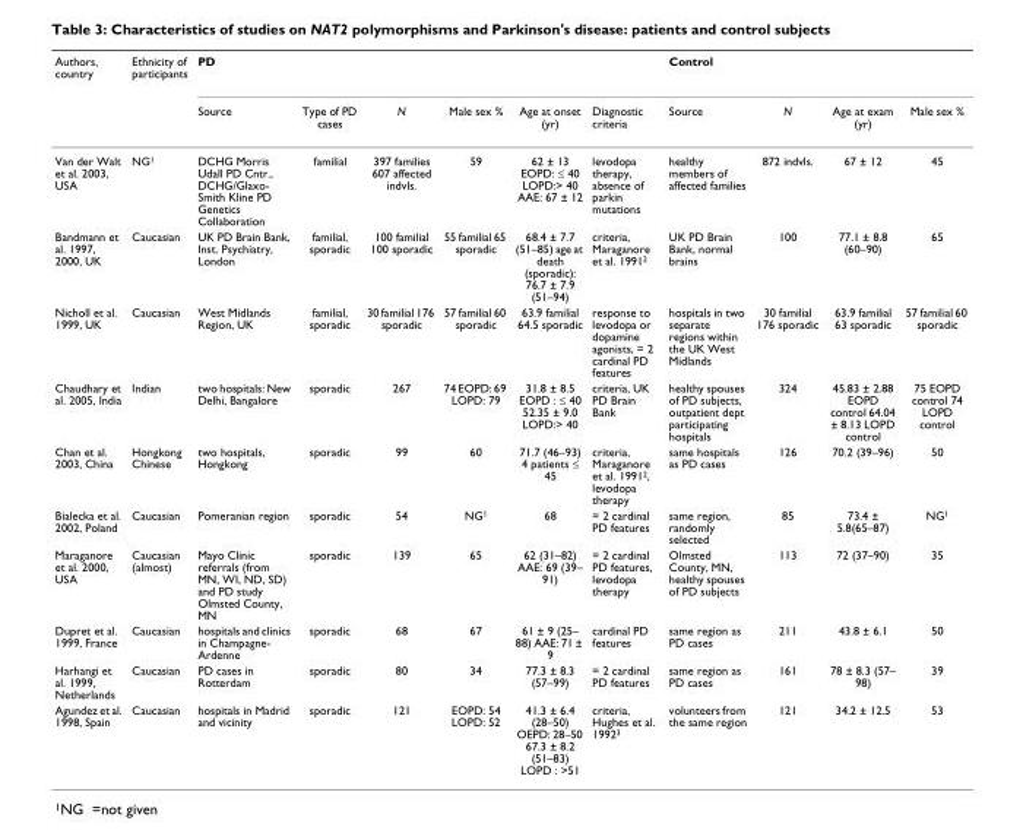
<table><thead><tr><td rowspan="2">Authors, country</td><td rowspan="2">Ethnicity of participants</td><td colspan="6">PD</td><td colspan="4">Control</td></tr><tr><td>Source</td><td>Type of PD cases</td><td>N</td><td>Male sex %</td><td>Age at onset (yr)</td><td>Diagnostic criteria</td><td>Source</td><td>N</td><td>Age at exam (yr)</td><td>Male sex %</td></tr></thead><tbody><tr><td>Van der Walt et al. 2003, USA</td><td>NG<sup>1</sup></td><td>DCHG Morris Udall PD Cntr., DCHG/Glaxo- Smith Kline PD Genetics Collaboration</td><td>familial</td><td>397 families 607 affected indvls.</td><td>59</td><td>62 ± 13 EOPD: ≤ 40 LOPD:&gt; 40 AAE: 67 ± 12</td><td>levodopa therapy, absence of parkin mutations</td><td>healthy members of affected families</td><td>872 indvls.</td><td>67 ± 12</td><td>45</td></tr><tr><td>Bandmann et al. 1997, 2000, UK</td><td>Caucasian</td><td>UK PD Brain Bank, Inst. Psychiatry, London</td><td>familial, sporadic</td><td>100 familial 100 sporadic</td><td>55 familial 65 sporadic</td><td>68.4 ± 7.7 (51–85) age at death (sporadic): 76.7 ± 7.9 (51–94)</td><td>criteria, Maraganore et al. 1991<sup>2</sup></td><td>UK PD Brain Bank, normal brains</td><td>100</td><td>77.1 ± 8.8 (60–90)</td><td>65</td></tr><tr><td>Nicholl et al. 1999, UK</td><td>Caucasian</td><td>West Midlands Region, UK</td><td>familial, sporadic</td><td>30 familial 176 sporadic</td><td>57 familial 60 sporadic</td><td>63.9 familial 64.5 sporadic</td><td>response to levodopa or dopamine agonists, = 2 cardinal PD features</td><td>hospitals in two separate regions within the UK West Midlands</td><td>30 familial 176 sporadic</td><td>63.9 familial 63 sporadic</td><td>57 familial 60 sporadic</td></tr><tr><td>Chaudhary et al. 2005, India</td><td>Indian</td><td>two hospitals: New Delhi, Bangalore</td><td>sporadic</td><td>267</td><td>74 EOPD: 69 LOPD: 79</td><td>31.8 ± 8.5 EOPD : ≤ 40 52.35 ± 9.0 LOPD:&gt; 40</td><td>criteria, UK PD Brain Bank</td><td>healthy spouses of PD subjects, outpatient dept participating hospitals</td><td>324</td><td>45.83 ± 2.88 EOPD control 64.04 ± 8.13 LOPD control</td><td>75 EOPD control 74 LOPD control</td></tr><tr><td>Chan et al. 2003, China</td><td>Hongkong Chinese</td><td>two hospitals, Hongkong</td><td>sporadic</td><td>99</td><td>60</td><td>71.7 (46–93) 4 patients ≤ 45</td><td>criteria, Maraganore et al. 1991<sup>2</sup>, levodopa therapy</td><td>same hospitals as PD cases</td><td>126</td><td>70.2 (39–96)</td><td>50</td></tr><tr><td>Bialecka et al. 2002, Poland</td><td>Caucasian</td><td>Pomeranian region</td><td>sporadic</td><td>54</td><td>NG<sup>1</sup></td><td>68</td><td>= 2 cardinal PD features</td><td>same region, randomly selected</td><td>85</td><td>73.4 ± 5.8(65–87)</td><td>NG<sup>1</sup></td></tr><tr><td>Maraganore et al. 2000, USA</td><td>Caucasian (almost)</td><td>Mayo Clinic referrals (from MN, WI, ND, SD) and PD study Olmsted County, MN</td><td>sporadic</td><td>139</td><td>65</td><td>62 (31–82) AAE: 69 (39– 91)</td><td>= 2 cardinal PD features, levodopa therapy</td><td>Olmsted County, MN, healthy spouses of PD subjects</td><td>113</td><td>72 (37–90)</td><td>35</td></tr><tr><td>Dupret et al. 1999, France</td><td>Caucasian</td><td>hospitals and clinics in Champagne- Ardenne</td><td>sporadic</td><td>68</td><td>67</td><td>61 ± 9 (25– 88) AAE: 71 ± 9</td><td>cardinal PD features</td><td>same region as PD cases</td><td>211</td><td>43.8 ± 6.1</td><td>50</td></tr><tr><td>Harhangi et al. 1999, Netherlands</td><td>Caucasian</td><td>PD cases in Rotterdam</td><td>sporadic</td><td>80</td><td>34</td><td>77.3 ± 8.3 (57–99)</td><td>= 2 cardinal PD features</td><td>same region as PD cases</td><td>161</td><td>78 ± 8.3 (57– 98)</td><td>39</td></tr><tr><td>Agundez et al. 1998, Spain</td><td>Caucasian</td><td>hospitals in Madrid and vicinity</td><td>sporadic</td><td>121</td><td>EOPD: 54 LOPD: 52</td><td>41.3 ± 6.4 (28–50) OEPD: 28–50 67.3 ± 8.2 (51–83) LOPD : &gt;51</td><td>criteria, Hughes et al. 1992<sup>3</sup></td><td>volunteers from the same region</td><td>121</td><td>34.2 ± 12.5</td><td>53</td></tr></tbody></table>